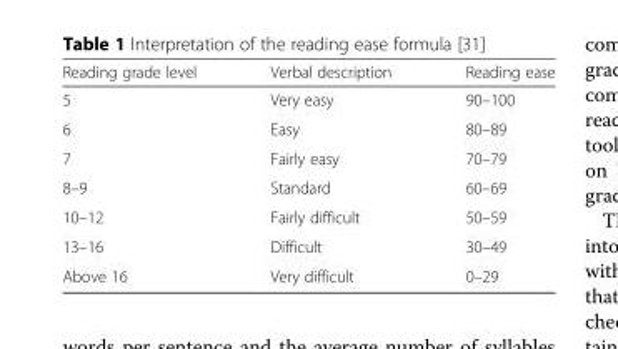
<table><thead><tr><td>Reading grade level</td><td>Verbal description</td><td>Reading ease</td></tr></thead><tbody><tr><td>5</td><td>Very easy</td><td>90–100</td></tr><tr><td>6</td><td>Easy</td><td>80–89</td></tr><tr><td>7</td><td>Fairly easy</td><td>70–79</td></tr><tr><td>8–9</td><td>Standard</td><td>60–69</td></tr><tr><td>10–12</td><td>Fairly difficult</td><td>50–59</td></tr><tr><td>13–16</td><td>Difficult</td><td>30–49</td></tr><tr><td>Above 16</td><td>Very difficult</td><td>0–29</td></tr></tbody></table>